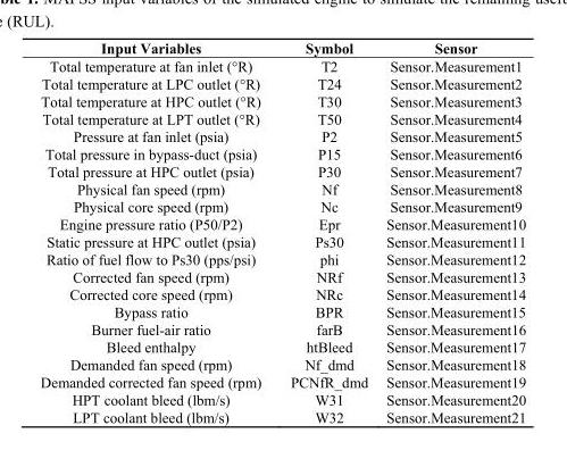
<table><thead><tr><td>Input Variables</td><td>Symbol</td><td>Sensor</td></tr></thead><tbody><tr><td>Total temperature at fan inlet (°R)</td><td>T2</td><td>Sensor.Measurement1</td></tr><tr><td>Total temperature at LPC outlet (°R)</td><td>T24</td><td>Sensor.Measurement2</td></tr><tr><td>Total temperature at HPC outlet (°R)</td><td>T30</td><td>Sensor.Measurement3</td></tr><tr><td>Total temperature at LPT outlet (°R)</td><td>T50</td><td>Sensor.Measurement4</td></tr><tr><td>Pressure at fan inlet (psia)</td><td>P2</td><td>Sensor.Measurement5</td></tr><tr><td>Total pressure in bypass-duct (psia)</td><td>P15</td><td>Sensor.Measurement6</td></tr><tr><td>Total pressure at HPC outlet (psia)</td><td>P30</td><td>Sensor.Measurement7</td></tr><tr><td>Physical fan speed (rpm)</td><td>Nf</td><td>Sensor.Measurement8</td></tr><tr><td>Physical core speed (rpm)</td><td>Nc</td><td>Sensor.Measurement9</td></tr><tr><td>Engine pressure ratio (P50/P2)</td><td>Epr</td><td>Sensor.Measurement10</td></tr><tr><td>Static pressure at HPC outlet (psia)</td><td>Ps30</td><td>Sensor.Measurement11</td></tr><tr><td>Ratio of fuel flow to Ps30 (pps/psi)</td><td>phi</td><td>Sensor.Measurement12</td></tr><tr><td>Corrected fan speed (rpm)</td><td>NRf</td><td>Sensor.Measurement13</td></tr><tr><td>Corrected core speed (rpm)</td><td>NRc</td><td>Sensor.Measurement14</td></tr><tr><td>Bypass ratio</td><td>BPR</td><td>Sensor.Measurement15</td></tr><tr><td>Burner fuel-air ratio</td><td>farB</td><td>Sensor.Measurement16</td></tr><tr><td>Bleed enthalpy</td><td>htBleed</td><td>Sensor.Measurement17</td></tr><tr><td>Demanded fan speed (rpm)</td><td>Nf_dmd</td><td>Sensor.Measurement18</td></tr><tr><td>Demanded corrected fan speed (rpm)</td><td>PCNfR_dmd</td><td>Sensor.Measurement19</td></tr><tr><td>HPT coolant bleed (lbm/s)</td><td>W31</td><td>Sensor.Measurement20</td></tr><tr><td>LPT coolant bleed (lbm/s)</td><td>W32</td><td>Sensor.Measurement21</td></tr></tbody></table>